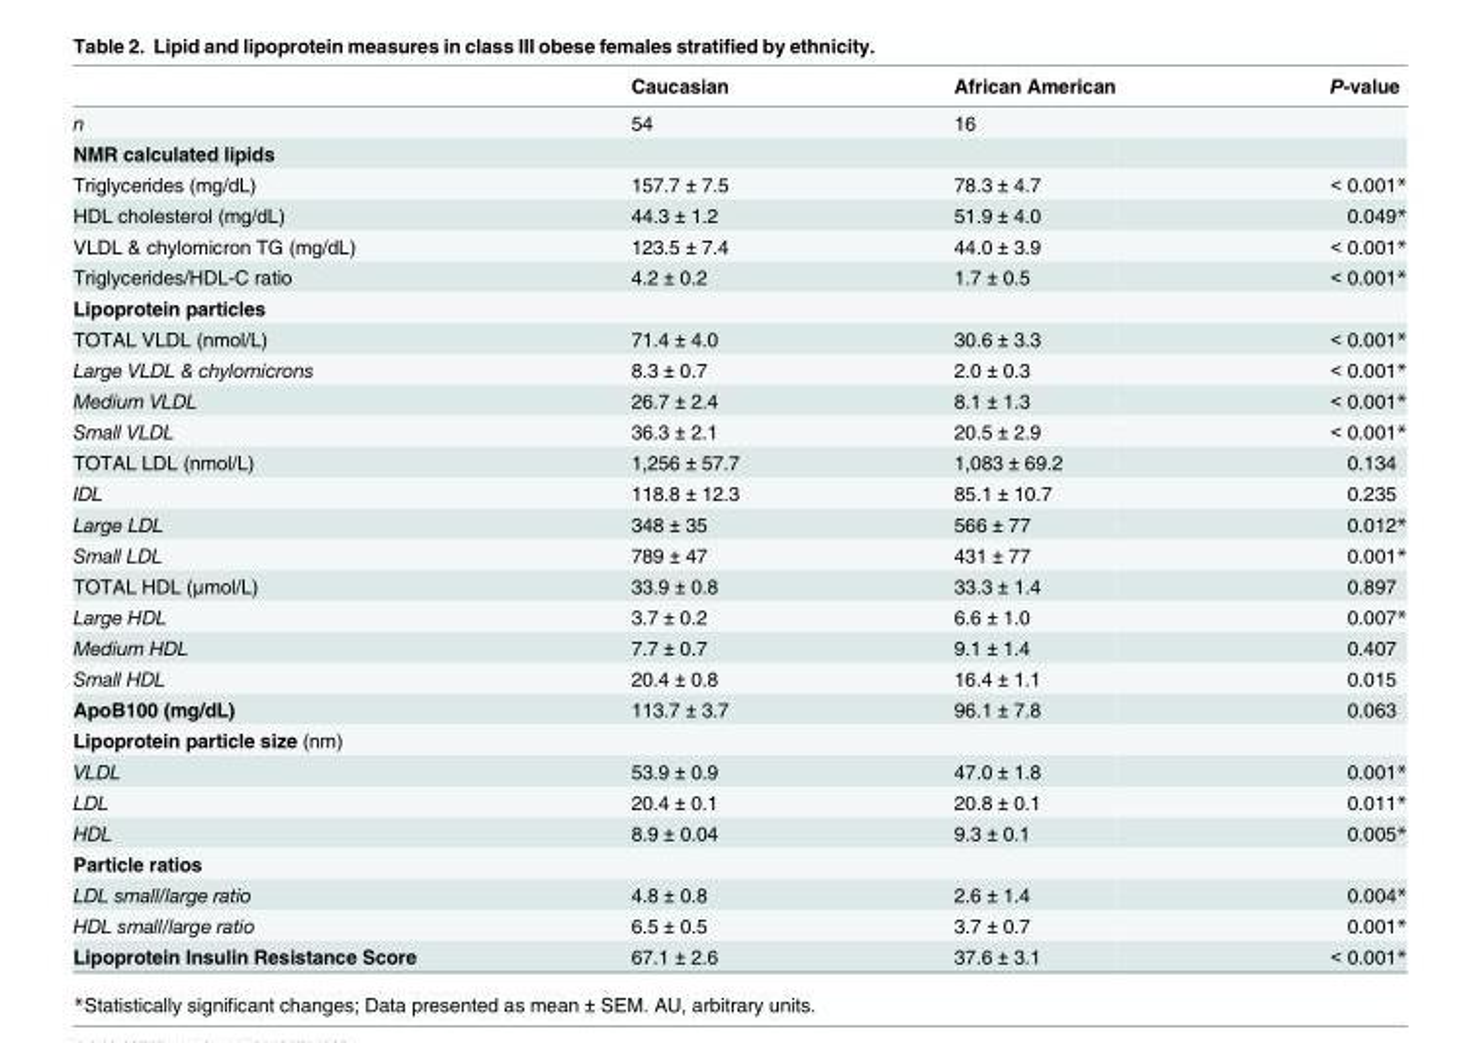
<table><thead><tr><td></td><td>Caucasian</td><td>African American</td><td>P-value</td></tr></thead><tbody><tr><td>n</td><td>54</td><td>16</td><td></td></tr><tr><td colspan="4">NMR calculated lipids</td></tr><tr><td>Triglycerides (mg/dL)</td><td>157.7 ± 7.5</td><td>78.3 ± 4.7</td><td>&lt; 0.001*</td></tr><tr><td>HDL cholesterol (mg/dL)</td><td>44.3 ± 1.2</td><td>51.9 ± 4.0</td><td>0.049*</td></tr><tr><td>VLDL &amp; chylomicron TG (mg/dL)</td><td>123.5 ± 7.4</td><td>44.0 ± 3.9</td><td>&lt; 0.001*</td></tr><tr><td>Triglycerides/HDL-C ratio</td><td>4.2 ± 0.2</td><td>1.7 ± 0.5</td><td>&lt; 0.001*</td></tr><tr><td colspan="4">Lipoprotein particles</td></tr><tr><td>TOTAL VLDL (nmol/L)</td><td>71.4 ± 4.0</td><td>30.6 ± 3.3</td><td>&lt; 0.001*</td></tr><tr><td>Large VLDL &amp; chylomicrons</td><td>8.3 ± 0.7</td><td>2.0 ± 0.3</td><td>&lt; 0.001*</td></tr><tr><td>Medium VLDL</td><td>26.7 ± 2.4</td><td>8.1 ± 1.3</td><td>&lt; 0.001*</td></tr><tr><td>Small VLDL</td><td>36.3 ± 2.1</td><td>20.5 ± 2.9</td><td>&lt; 0.001*</td></tr><tr><td>TOTAL LDL (nmol/L)</td><td>1,256 ± 57.7</td><td>1,083 ± 69.2</td><td>0.134</td></tr><tr><td>IDL</td><td>118.8 ± 12.3</td><td>85.1 ± 10.7</td><td>0.235</td></tr><tr><td>Large LDL</td><td>348 ± 35</td><td>566 ± 77</td><td>0.012*</td></tr><tr><td>Small LDL</td><td>789 ± 47</td><td>431 ± 77</td><td>0.001*</td></tr><tr><td>TOTAL HDL (μmol/L)</td><td>33.9 ± 0.8</td><td>33.3 ± 1.4</td><td>0.897</td></tr><tr><td>Large HDL</td><td>3.7 ± 0.2</td><td>6.6 ± 1.0</td><td>0.007*</td></tr><tr><td>Medium HDL</td><td>7.7 ± 0.7</td><td>9.1 ± 1.4</td><td>0.407</td></tr><tr><td>Small HDL</td><td>20.4 ± 0.8</td><td>16.4 ± 1.1</td><td>0.015</td></tr><tr><td>ApoB100 (mg/dL)</td><td>113.7 ± 3.7</td><td>96.1 ± 7.8</td><td>0.063</td></tr><tr><td colspan="4">Lipoprotein particle size (nm)</td></tr><tr><td>VLDL</td><td>53.9 ± 0.9</td><td>47.0 ± 1.8</td><td>0.001*</td></tr><tr><td>LDL</td><td>20.4 ± 0.1</td><td>20.8 ± 0.1</td><td>0.011*</td></tr><tr><td>HDL</td><td>8.9 ± 0.04</td><td>9.3 ± 0.1</td><td>0.005*</td></tr><tr><td colspan="4">Particle ratios</td></tr><tr><td>LDL small/large ratio</td><td>4.8 ± 0.8</td><td>2.6 ± 1.4</td><td>0.004*</td></tr><tr><td>HDL small/large ratio</td><td>6.5 ± 0.5</td><td>3.7 ± 0.7</td><td>0.001*</td></tr><tr><td>Lipoprotein Insulin Resistance Score</td><td>67.1 ± 2.6</td><td>37.6 ± 3.1</td><td>&lt; 0.001*</td></tr></tbody></table>